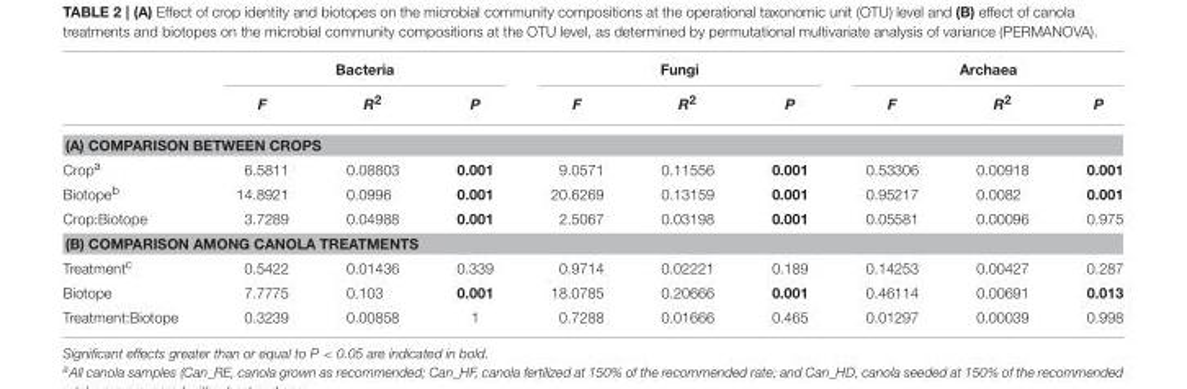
<table><thead><tr><td rowspan="2"></td><td colspan="3">Bacteria</td><td colspan="3">Fungi</td><td colspan="3">Archaea</td></tr><tr><td>F</td><td>R<sup>2</sup></td><td>P</td><td>F</td><td>R<sup>2</sup></td><td>P</td><td>F</td><td>R<sup>2</sup></td><td>P</td></tr></thead><tbody><tr><td colspan="10">(A) COMPARISON BETWEEN CROPS</td></tr><tr><td>Crop<sup>a</sup></td><td>6.5811</td><td>0.08803</td><td>0.001</td><td>9.0571</td><td>0.11556</td><td>0.001</td><td>0.53306</td><td>0.00918</td><td>0.001</td></tr><tr><td>Biotope<sup>b</sup></td><td>14.8921</td><td>0.0996</td><td>0.001</td><td>20.6269</td><td>0.13159</td><td>0.001</td><td>0.95217</td><td>0.0082</td><td>0.001</td></tr><tr><td>Crop:Biotope</td><td>3.7289</td><td>0.04988</td><td>0.001</td><td>2.5067</td><td>0.03198</td><td>0.001</td><td>0.05581</td><td>0.00096</td><td>0.975</td></tr><tr><td colspan="10">(B) COMPARISON AMONG CANOLA TREATMENTS</td></tr><tr><td>Treatment<sup>c</sup></td><td>0.5422</td><td>0.01436</td><td>0.339</td><td>0.9714</td><td>0.02221</td><td>0.189</td><td>0.14253</td><td>0.00427</td><td>0.287</td></tr><tr><td>Biotope</td><td>7.7775</td><td>0.103</td><td>0.001</td><td>18.0785</td><td>0.20666</td><td>0.001</td><td>0.46114</td><td>0.00691</td><td>0.013</td></tr><tr><td>Treatment:Biotope</td><td>0.3239</td><td>0.00858</td><td>1</td><td>0.7288</td><td>0.01666</td><td>0.465</td><td>0.01297</td><td>0.00039</td><td>0.998</td></tr></tbody></table>